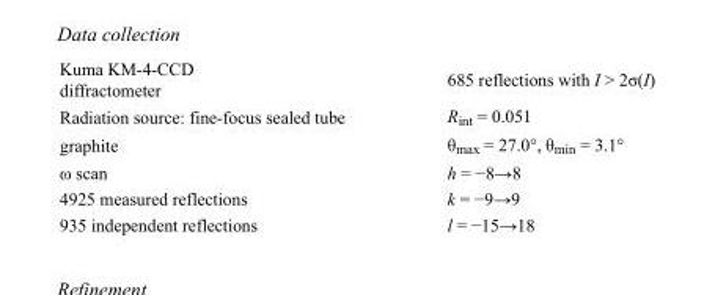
<table><tbody><tr><td>Kuma KM-4-CCD diffractometer</td><td>685 reflections with I &gt; 2σ(I)</td></tr><tr><td>Radiation source: fine-focus sealed tube</td><td>R<sub>int</sub> = 0.051</td></tr><tr><td>graphite</td><td>θ<sub>max</sub> = 27.0°, θ<sub>min</sub> = 3.1°</td></tr><tr><td>ω scan</td><td>h = −8→8</td></tr><tr><td>4925 measured reflections</td><td>k = −9→9</td></tr><tr><td>935 independent reflections</td><td>l = −15→18</td></tr></tbody></table>